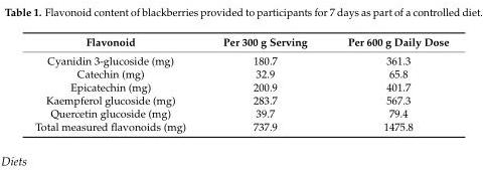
<table><thead><tr><td>Flavonoid</td><td>Per 300 g Serving</td><td>Per 600 g Daily Dose</td></tr></thead><tbody><tr><td>Cyanidin 3-glucoside (mg)</td><td>180.7</td><td>361.3</td></tr><tr><td>Catechin (mg)</td><td>32.9</td><td>65.8</td></tr><tr><td>Epicatechin (mg)</td><td>200.9</td><td>401.7</td></tr><tr><td>Kaempferol glucoside (mg)</td><td>283.7</td><td>567.3</td></tr><tr><td>Quercetin glucoside (mg)</td><td>39.7</td><td>79.4</td></tr><tr><td>Total measured flavonoids (mg)</td><td>737.9</td><td>1475.8</td></tr></tbody></table>